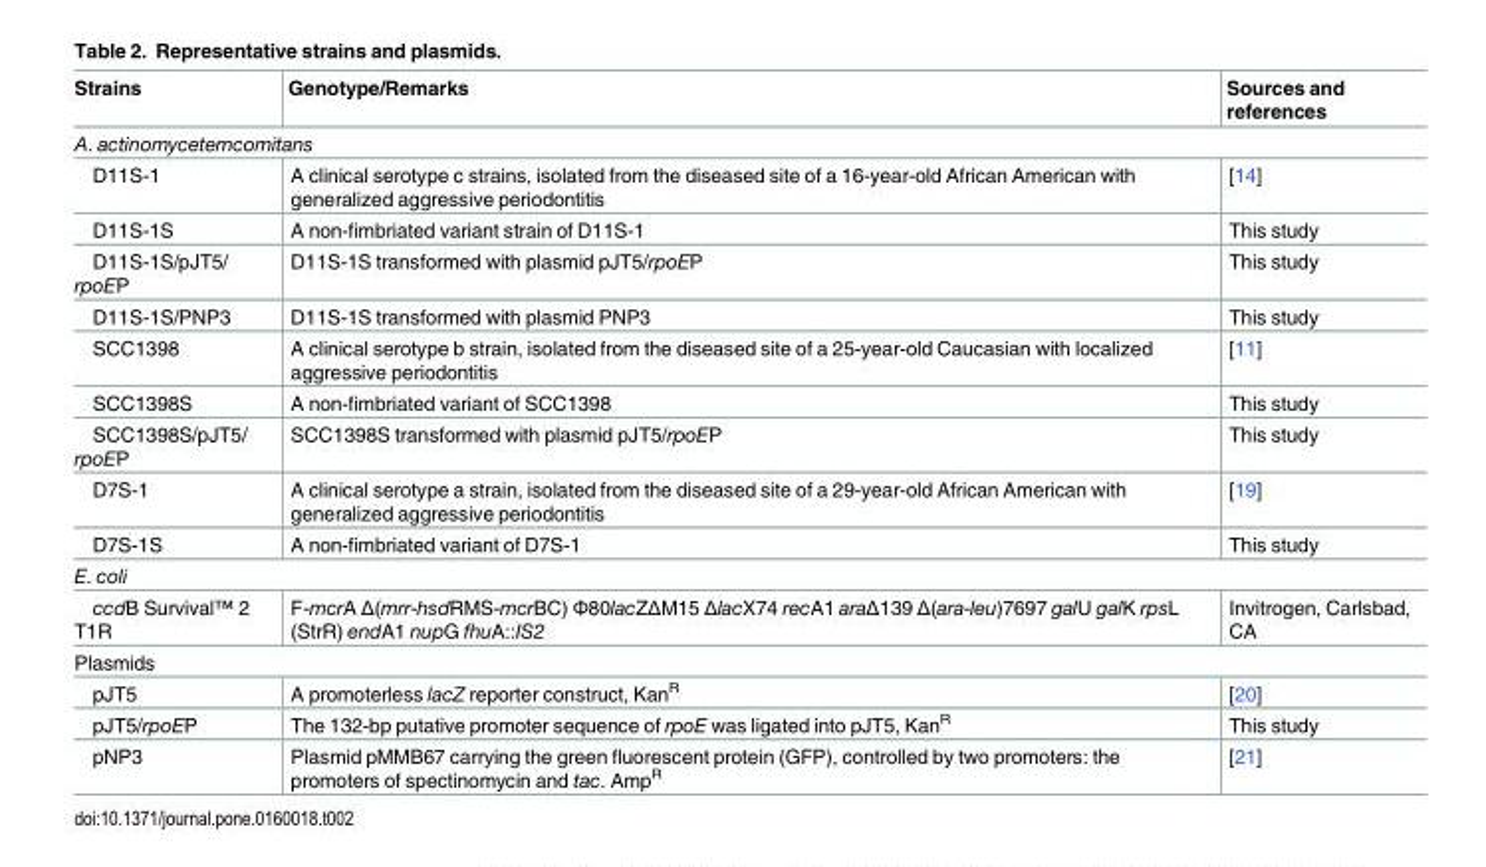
<table><thead><tr><td>Strains</td><td>Genotype/Remarks</td><td>Sources and references</td></tr></thead><tbody><tr><td colspan="3">A. actinomycetemcomitans</td></tr><tr><td>D11S-1</td><td>A clinical serotype c strains, isolated from the diseased site of a 16-year-old African American with generalized aggressive periodontitis</td><td>[14]</td></tr><tr><td>D11S-1S</td><td>A non-fimbriated variant strain of D11S-1</td><td>This study</td></tr><tr><td>D11S-1S/pJT5/ rpoEP</td><td>D11S-1S transformed with plasmid pJT5/rpoEP</td><td>This study</td></tr><tr><td>D11S-1S/PNP3</td><td>D11S-1S transformed with plasmid PNP3</td><td>This study</td></tr><tr><td>SCC1398</td><td>A clinical serotype b strain, isolated from the diseased site of a 25-year-old Caucasian with localized aggressive periodontitis</td><td>[11]</td></tr><tr><td>SCC1398S</td><td>A non-fimbriated variant of SCC1398</td><td>This study</td></tr><tr><td>SCC1398S/pJT5/ rpoEP</td><td>SCC1398S transformed with plasmid pJT5/rpoEP</td><td>This study</td></tr><tr><td>D7S-1</td><td>A clinical serotype a strain, isolated from the diseased site of a 29-year-old African American with generalized aggressive periodontitis</td><td>[19]</td></tr><tr><td>D7S-1S</td><td>A non-fimbriated variant of D7S-1</td><td>This study</td></tr><tr><td colspan="3">E. coli</td></tr><tr><td>ccdB Survival™ 2 T1R</td><td>F-mcrA Δ(mrr-hsdRMS-mcrBC) Φ80lacZΔM15 ΔlacX74 recA1 araΔ139 Δ(ara-leu)7697 galU galK rpsL (StrR) endA1 nupG fhuA::IS2</td><td>Invitrogen, Carlsbad, CA</td></tr><tr><td colspan="3">Plasmids</td></tr><tr><td>pJT5</td><td>A promoterless lacZ reporter construct, Kan<sup>R</sup></td><td>[20]</td></tr><tr><td>pJT5/rpoEP</td><td>The 132-bp putative promoter sequence of rpoE was ligated into pJT5, Kan<sup>R</sup></td><td>This study</td></tr><tr><td>pNP3</td><td>Plasmid pMMB67 carrying the green fluorescent protein (GFP), controlled by two promoters: the promoters of spectinomycin and tac. Amp<sup>R</sup></td><td>[21]</td></tr></tbody></table>